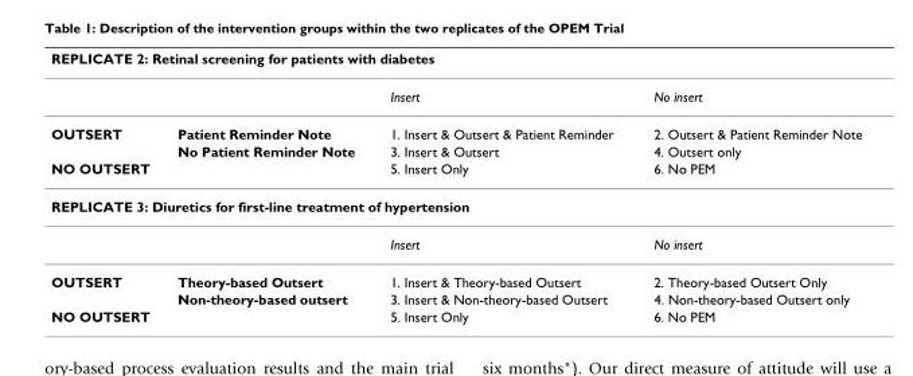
<table><thead><tr><td colspan="4">REPLICATE 2: Retinal screening for patients with diabetes</td></tr><tr><td></td><td></td><td>Insert</td><td>No insert</td></tr></thead><tbody><tr><td rowspan="2">OUTSERT</td><td>Patient Reminder Note</td><td>1. Insert &amp; Outsert &amp; Patient Reminder</td><td>2. Outsert &amp; Patient Reminder Note</td></tr><tr><td>No Patient Reminder Note</td><td>3. Insert &amp; Outsert</td><td>4. Outsert only</td></tr><tr><td>NO OUTSERT</td><td></td><td>5. Insert Only</td><td>6. No PEM</td></tr><tr><td colspan="4">REPLICATE 3: Diuretics for first-line treatment of hypertension</td></tr><tr><td></td><td></td><td>Insert</td><td>No insert</td></tr><tr><td rowspan="2">OUTSERT</td><td>Theory-based Outsert</td><td>1. Insert &amp; Theory-based Outsert</td><td>2. Theory-based Outsert Only</td></tr><tr><td>Non-theory-based outsert</td><td>3. Insert &amp; Non-theory-based Outsert</td><td>4. Non-theory-based Outsert only</td></tr><tr><td>NO OUTSERT</td><td></td><td>5. Insert Only</td><td>6. No PEM</td></tr></tbody></table>